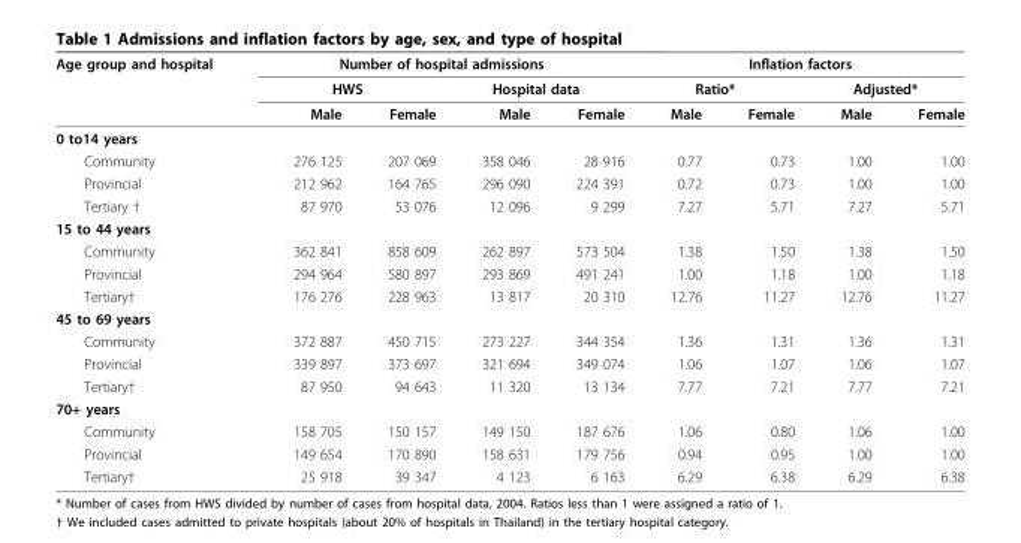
<table><thead><tr><td rowspan="3">Age group and hospital</td><td colspan="4">Number of hospital admissions</td><td colspan="4">Inflation factors</td></tr><tr><td colspan="2">HWS</td><td colspan="2">Hospital data</td><td colspan="2">Ratio*</td><td colspan="2">Adjusted*</td></tr><tr><td>Male</td><td>Female</td><td>Male</td><td>Female</td><td>Male</td><td>Female</td><td>Male</td><td>Female</td></tr></thead><tbody><tr><td colspan="9">0 to14 years</td></tr><tr><td>Community</td><td>276 125</td><td>207 069</td><td>358 046</td><td>28 916</td><td>0.77</td><td>0.73</td><td>1.00</td><td>1.00</td></tr><tr><td>Provincial</td><td>212 962</td><td>164 765</td><td>296 090</td><td>224 391</td><td>0.72</td><td>0.73</td><td>1.00</td><td>1.00</td></tr><tr><td>Tertiary †</td><td>87 970</td><td>53 076</td><td>12 096</td><td>9 299</td><td>7.27</td><td>5.71</td><td>7.27</td><td>5.71</td></tr><tr><td colspan="9">15 to 44 years</td></tr><tr><td>Community</td><td>362 841</td><td>858 609</td><td>262 897</td><td>573 504</td><td>1.38</td><td>1.50</td><td>1.38</td><td>1.50</td></tr><tr><td>Provincial</td><td>294 964</td><td>580 897</td><td>293 869</td><td>491 241</td><td>1.00</td><td>1.18</td><td>1.00</td><td>1.18</td></tr><tr><td>Tertiary†</td><td>176 276</td><td>228 963</td><td>13 817</td><td>20 310</td><td>12.76</td><td>11.27</td><td>12.76</td><td>11.27</td></tr><tr><td colspan="9">45 to 69 years</td></tr><tr><td>Community</td><td>372 887</td><td>450 715</td><td>273 227</td><td>344 354</td><td>1.36</td><td>1.31</td><td>1.36</td><td>1.31</td></tr><tr><td>Provincial</td><td>339 897</td><td>373 697</td><td>321 694</td><td>349 074</td><td>1.06</td><td>1.07</td><td>1.06</td><td>1.07</td></tr><tr><td>Tertiary†</td><td>87 950</td><td>94 643</td><td>11 320</td><td>13 134</td><td>7.77</td><td>7.21</td><td>7.77</td><td>7.21</td></tr><tr><td colspan="9">70+ years</td></tr><tr><td>Community</td><td>158 705</td><td>150 157</td><td>149 150</td><td>187 676</td><td>1.06</td><td>0.80</td><td>1.06</td><td>1.00</td></tr><tr><td>Provincial</td><td>149 654</td><td>170 890</td><td>158 631</td><td>179 756</td><td>0.94</td><td>0.95</td><td>1.00</td><td>1.00</td></tr><tr><td>Tertiary†</td><td>25 918</td><td>39 347</td><td>4 123</td><td>6 163</td><td>6.29</td><td>6.38</td><td>6.29</td><td>6.38</td></tr></tbody></table>